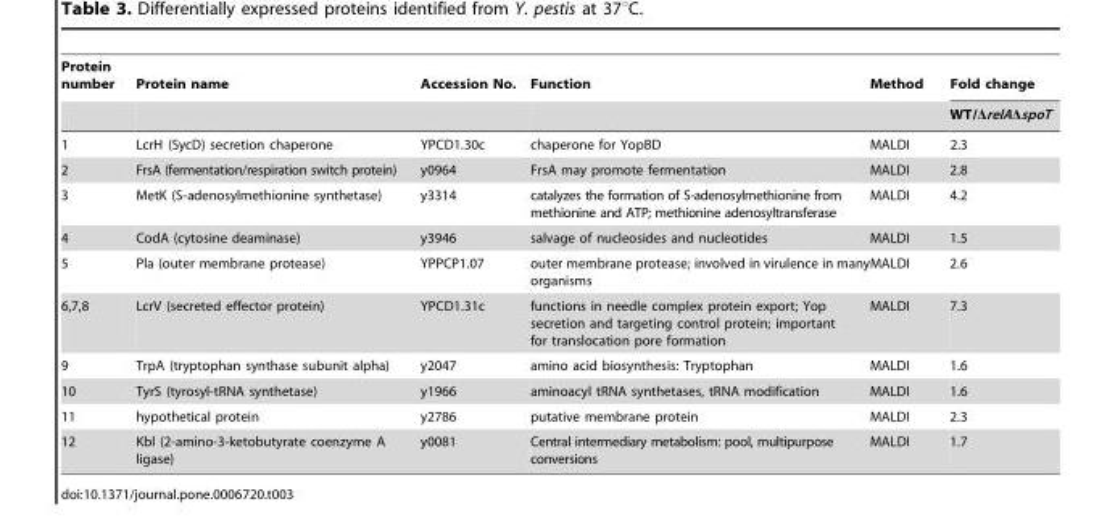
<table><thead><tr><td rowspan="2">Protein number</td><td rowspan="2">Protein name</td><td rowspan="2">Accession No.</td><td rowspan="2">Function</td><td rowspan="2">Method</td><td rowspan="2">Fold change WT/ΔrelAΔspoT</td></tr><tr></tr></thead><tbody><tr><td>1</td><td>LcrH (SycD) secretion chaperone</td><td>YPCD1.30c</td><td>chaperone for YopBD</td><td>MALDI</td><td>2.3</td></tr><tr><td>2</td><td>FrsA (fermentation/respiration switch protein)</td><td>y0964</td><td>FrsA may promote fermentation</td><td>MALDI</td><td>2.8</td></tr><tr><td>3</td><td>MetK (S-adenosylmethionine synthetase)</td><td>y3314</td><td>catalyzes the formation of S-adenosylmethionine from methionine and ATP; methionine adenosyltransferase</td><td>MALDI</td><td>4.2</td></tr><tr><td>4</td><td>CodA (cytosine deaminase)</td><td>y3946</td><td>salvage of nucleosides and nucleotides</td><td>MALDI</td><td>1.5</td></tr><tr><td>5</td><td>Pla (outer membrane protease)</td><td>YPPCP1.07</td><td>outer membrane protease; involved in virulence in many organisms</td><td>MALDI</td><td>2.6</td></tr><tr><td>6,7,8</td><td>LcrV (secreted effector protein)</td><td>YPCD1.31c</td><td>functions in needle complex protein export; Yop secretion and targeting control protein; important for translocation pore formation</td><td>MALDI</td><td>7.3</td></tr><tr><td>9</td><td>TrpA (tryptophan synthase subunit alpha)</td><td>y2047</td><td>amino acid biosynthesis: Tryptophan</td><td>MALDI</td><td>1.6</td></tr><tr><td>10</td><td>TyrS (tyrosyl-tRNA synthetase)</td><td>y1966</td><td>aminoacyl tRNA synthetases, tRNA modification</td><td>MALDI</td><td>1.6</td></tr><tr><td>11</td><td>hypothetical protein</td><td>y2786</td><td>putative membrane protein</td><td>MALDI</td><td>2.3</td></tr><tr><td>12</td><td>Kbl (2-amino-3-ketobutyrate coenzyme A ligase)</td><td>y0081</td><td>Central intermediary metabolism: pool, multipurpose conversions</td><td>MALDI</td><td>1.7</td></tr></tbody></table>